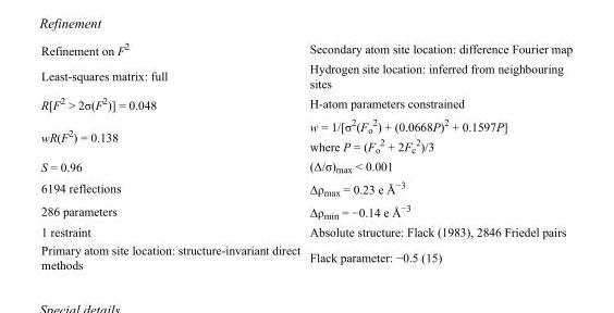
<table><tbody><tr><td>Refinement on F<sup>2</sup></td><td>Secondary atom site location: difference Fourier map</td></tr><tr><td>Least-squares matrix: full</td><td>Hydrogen site location: inferred from neighbouring sites</td></tr><tr><td>R[F<sup>2</sup> &gt; 2σ(F<sup>2</sup>)] = 0.048</td><td>H-atom parameters constrained</td></tr><tr><td>wR(F<sup>2</sup>) = 0.138</td><td>w = 1/[σ<sup>2</sup>(F<sub>o</sub> <sup>2</sup>) + (0.0668P)<sup>2</sup> + 0.1597P] where P = (F<sub>o</sub> <sup>2</sup> + 2F<sub>c</sub> <sup>2</sup>)/3</td></tr><tr><td>S = 0.96</td><td>(Δ/σ)<sub>max</sub> &lt; 0.001</td></tr><tr><td>6194 reflections</td><td>Δρ<sub>max</sub> = 0.23 e Å<sup>−3</sup></td></tr><tr><td>286 parameters</td><td>Δρ<sub>min</sub> = −0.14 e Å<sup>−3</sup></td></tr><tr><td>1 restraint</td><td>Absolute structure: Flack (1983), 2846 Friedel pairs</td></tr><tr><td>Primary atom site location: structure-invariant direct methods</td><td>Flack parameter: −0.5 (15)</td></tr></tbody></table>